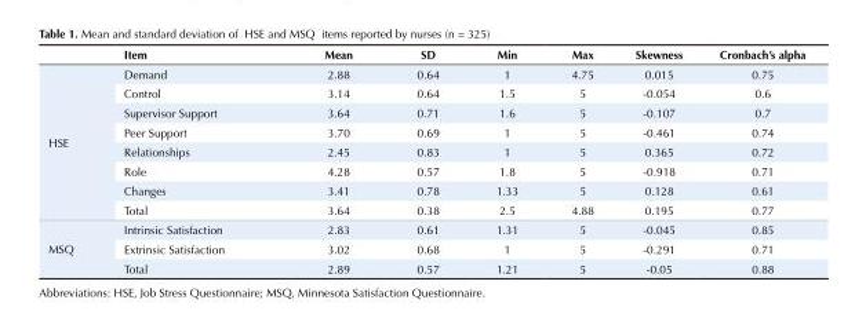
<table><thead><tr><td></td><td>Item</td><td>Mean</td><td>SD</td><td>Min</td><td>Max</td><td>Skewness</td><td>Cronbach’s alpha</td></tr></thead><tbody><tr><td rowspan="8">HSE</td><td>Demand</td><td>2.88</td><td>0.64</td><td>1</td><td>4.75</td><td>0.015</td><td>0.75</td></tr><tr><td>Control</td><td>3.14</td><td>0.64</td><td>1.5</td><td>5</td><td>-0.054</td><td>0.6</td></tr><tr><td>Supervisor Support</td><td>3.64</td><td>0.71</td><td>1.6</td><td>5</td><td>-0.107</td><td>0.7</td></tr><tr><td>Peer Support</td><td>3.70</td><td>0.69</td><td>1</td><td>5</td><td>-0.461</td><td>0.74</td></tr><tr><td>Relationships</td><td>2.45</td><td>0.83</td><td>1</td><td>5</td><td>0.365</td><td>0.72</td></tr><tr><td>Role</td><td>4.28</td><td>0.57</td><td>1.8</td><td>5</td><td>-0.918</td><td>0.71</td></tr><tr><td>Changes</td><td>3.41</td><td>0.78</td><td>1.33</td><td>5</td><td>0.128</td><td>0.61</td></tr><tr><td>Total</td><td>3.64</td><td>0.38</td><td>2.5</td><td>4.88</td><td>0.195</td><td>0.77</td></tr><tr><td rowspan="3">MSQ</td><td>Intrinsic Satisfaction</td><td>2.83</td><td>0.61</td><td>1.31</td><td>5</td><td>-0.045</td><td>0.85</td></tr><tr><td>Extrinsic Satisfaction</td><td>3.02</td><td>0.68</td><td>1</td><td>5</td><td>-0.291</td><td>0.71</td></tr><tr><td>Total</td><td>2.89</td><td>0.57</td><td>1.21</td><td>5</td><td>-0.05</td><td>0.88</td></tr></tbody></table>